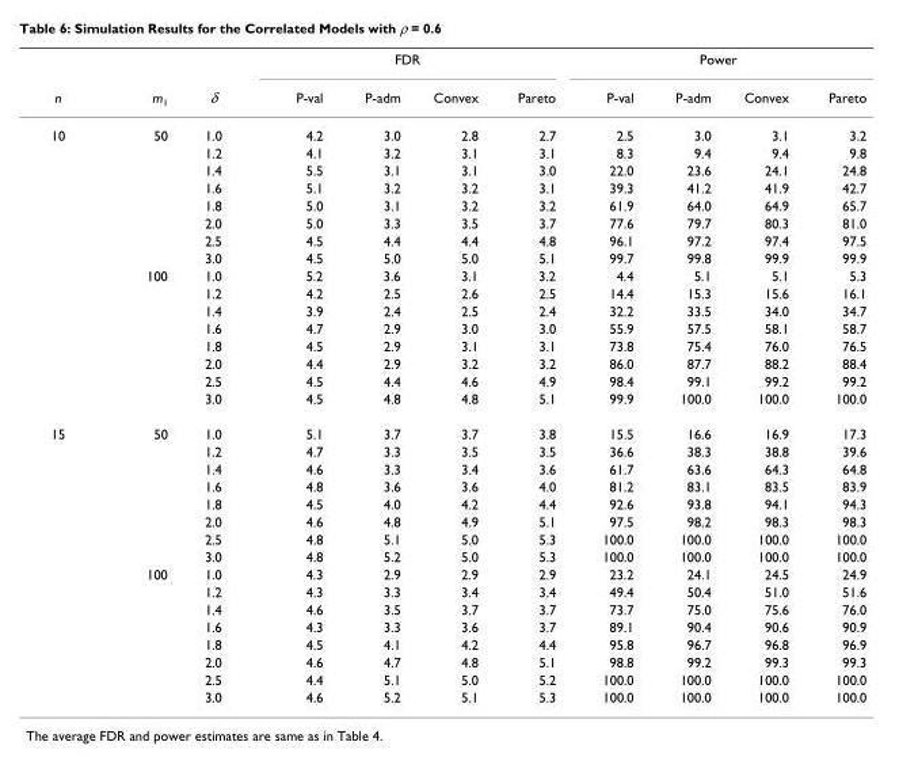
<table><thead><tr><td rowspan="2">n</td><td rowspan="2">m<sub>1</sub></td><td rowspan="2">δ</td><td colspan="4">FDR</td><td colspan="4">Power</td></tr><tr><td>P-val</td><td>P-adm</td><td>Convex</td><td>Pareto</td><td>P-val</td><td>P-adm</td><td>Convex</td><td>Pareto</td></tr></thead><tbody><tr><td rowspan="16">10</td><td>50</td><td>1.0</td><td>4.2</td><td>3.0</td><td>2.8</td><td>2.7</td><td>2.5</td><td>3.0</td><td>3.1</td><td>3.2</td></tr><tr><td></td><td>1.2</td><td>4.1</td><td>3.2</td><td>3.1</td><td>3.1</td><td>8.3</td><td>9.4</td><td>9.4</td><td>9.8</td></tr><tr><td></td><td>1.4</td><td>5.5</td><td>3.1</td><td>3.1</td><td>3.0</td><td>22.0</td><td>23.6</td><td>24.1</td><td>24.8</td></tr><tr><td></td><td>1.6</td><td>5.1</td><td>3.2</td><td>3.2</td><td>3.1</td><td>39.3</td><td>41.2</td><td>41.9</td><td>42.7</td></tr><tr><td></td><td>1.8</td><td>5.0</td><td>3.1</td><td>3.2</td><td>3.2</td><td>61.9</td><td>64.0</td><td>64.9</td><td>65.7</td></tr><tr><td></td><td>2.0</td><td>5.0</td><td>3.3</td><td>3.5</td><td>3.7</td><td>77.6</td><td>79.7</td><td>80.3</td><td>81.0</td></tr><tr><td></td><td>2.5</td><td>4.5</td><td>4.4</td><td>4.4</td><td>4.8</td><td>96.1</td><td>97.2</td><td>97.4</td><td>97.5</td></tr><tr><td></td><td>3.0</td><td>4.5</td><td>5.0</td><td>5.0</td><td>5.1</td><td>99.7</td><td>99.8</td><td>99.9</td><td>99.9</td></tr><tr><td>100</td><td>1.0</td><td>5.2</td><td>3.6</td><td>3.1</td><td>3.2</td><td>4.4</td><td>5.1</td><td>5.1</td><td>5.3</td></tr><tr><td></td><td>1.2</td><td>4.2</td><td>2.5</td><td>2.6</td><td>2.5</td><td>14.4</td><td>15.3</td><td>15.6</td><td>16.1</td></tr><tr><td></td><td>1.4</td><td>3.9</td><td>2.4</td><td>2.5</td><td>2.4</td><td>32.2</td><td>33.5</td><td>34.0</td><td>34.7</td></tr><tr><td></td><td>1.6</td><td>4.7</td><td>2.9</td><td>3.0</td><td>3.0</td><td>55.9</td><td>57.5</td><td>58.1</td><td>58.7</td></tr><tr><td></td><td>1.8</td><td>4.5</td><td>2.9</td><td>3.1</td><td>3.1</td><td>73.8</td><td>75.4</td><td>76.0</td><td>76.5</td></tr><tr><td></td><td>2.0</td><td>4.4</td><td>2.9</td><td>3.2</td><td>3.2</td><td>86.0</td><td>87.7</td><td>88.2</td><td>88.4</td></tr><tr><td></td><td>2.5</td><td>4.5</td><td>4.4</td><td>4.6</td><td>4.9</td><td>98.4</td><td>99.1</td><td>99.2</td><td>99.2</td></tr><tr><td></td><td>3.0</td><td>4.5</td><td>4.8</td><td>4.8</td><td>5.1</td><td>99.9</td><td>100.0</td><td>100.0</td><td>100.0</td></tr><tr><td rowspan="16">15</td><td>50</td><td>1.0</td><td>5.1</td><td>3.7</td><td>3.7</td><td>3.8</td><td>15.5</td><td>16.6</td><td>16.9</td><td>17.3</td></tr><tr><td></td><td>1.2</td><td>4.7</td><td>3.3</td><td>3.5</td><td>3.5</td><td>36.6</td><td>38.3</td><td>38.8</td><td>39.6</td></tr><tr><td></td><td>1.4</td><td>4.6</td><td>3.3</td><td>3.4</td><td>3.6</td><td>61.7</td><td>63.6</td><td>64.3</td><td>64.8</td></tr><tr><td></td><td>1.6</td><td>4.8</td><td>3.6</td><td>3.6</td><td>4.0</td><td>81.2</td><td>83.1</td><td>83.5</td><td>83.9</td></tr><tr><td></td><td>1.8</td><td>4.5</td><td>4.0</td><td>4.2</td><td>4.4</td><td>92.6</td><td>93.8</td><td>94.1</td><td>94.3</td></tr><tr><td></td><td>2.0</td><td>4.6</td><td>4.8</td><td>4.9</td><td>5.1</td><td>97.5</td><td>98.2</td><td>98.3</td><td>98.3</td></tr><tr><td></td><td>2.5</td><td>4.8</td><td>5.1</td><td>5.0</td><td>5.3</td><td>100.0</td><td>100.0</td><td>100.0</td><td>100.0</td></tr><tr><td></td><td>3.0</td><td>4.8</td><td>5.2</td><td>5.0</td><td>5.3</td><td>100.0</td><td>100.0</td><td>100.0</td><td>100.0</td></tr><tr><td>100</td><td>1.0</td><td>4.3</td><td>2.9</td><td>2.9</td><td>2.9</td><td>23.2</td><td>24.1</td><td>24.5</td><td>24.9</td></tr><tr><td></td><td>1.2</td><td>4.3</td><td>3.3</td><td>3.4</td><td>3.4</td><td>49.4</td><td>50.4</td><td>51.0</td><td>51.6</td></tr><tr><td></td><td>1.4</td><td>4.6</td><td>3.5</td><td>3.7</td><td>3.7</td><td>73.7</td><td>75.0</td><td>75.6</td><td>76.0</td></tr><tr><td></td><td>1.6</td><td>4.3</td><td>3.3</td><td>3.6</td><td>3.7</td><td>89.1</td><td>90.4</td><td>90.6</td><td>90.9</td></tr><tr><td></td><td>1.8</td><td>4.5</td><td>4.1</td><td>4.2</td><td>4.4</td><td>95.8</td><td>96.7</td><td>96.8</td><td>96.9</td></tr><tr><td></td><td>2.0</td><td>4.6</td><td>4.7</td><td>4.8</td><td>5.1</td><td>98.8</td><td>99.2</td><td>99.3</td><td>99.3</td></tr><tr><td></td><td>2.5</td><td>4.4</td><td>5.1</td><td>5.0</td><td>5.2</td><td>100.0</td><td>100.0</td><td>100.0</td><td>100.0</td></tr><tr><td></td><td>3.0</td><td>4.6</td><td>5.2</td><td>5.1</td><td>5.3</td><td>100.0</td><td>100.0</td><td>100.0</td><td>100.0</td></tr></tbody></table>